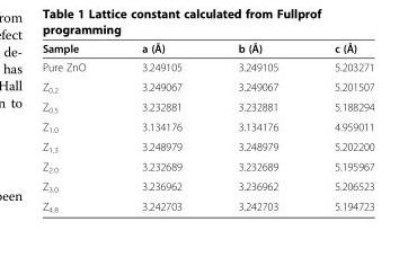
<table><thead><tr><td>Sample</td><td>a (Å)</td><td>b (Å)</td><td>c (Å)</td></tr></thead><tbody><tr><td>Pure ZnO</td><td>3.249105</td><td>3.249105</td><td>5.203271</td></tr><tr><td>Z<sub>0.2</sub></td><td>3.249067</td><td>3.249067</td><td>5.201507</td></tr><tr><td>Z<sub>0.5</sub></td><td>3.232881</td><td>3.232881</td><td>5.188294</td></tr><tr><td>Z<sub>1.0</sub></td><td>3.134176</td><td>3.134176</td><td>4.959011</td></tr><tr><td>Z<sub>1.3</sub></td><td>3.248979</td><td>3.248979</td><td>5.202200</td></tr><tr><td>Z<sub>2.0</sub></td><td>3.232689</td><td>3.232689</td><td>5.195967</td></tr><tr><td>Z<sub>3.0</sub></td><td>3.236962</td><td>3.236962</td><td>5.206523</td></tr><tr><td>Z<sub>4.8</sub></td><td>3.242703</td><td>3.242703</td><td>5.194723</td></tr></tbody></table>